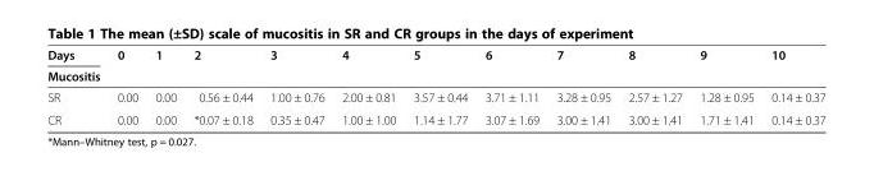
<table><thead><tr><td rowspan="2">Days Mucositis</td><td rowspan="2">0</td><td rowspan="2">1</td><td rowspan="2">2</td><td rowspan="2">3</td><td rowspan="2">4</td><td rowspan="2">5</td><td rowspan="2">6</td><td rowspan="2">7</td><td rowspan="2">8</td><td rowspan="2">9</td><td rowspan="2">10</td></tr><tr></tr></thead><tbody><tr><td>SR</td><td>0.00</td><td>0.00</td><td>0.56 ± 0.44</td><td>1.00 ± 0.76</td><td>2.00 ± 0.81</td><td>3.57 ± 0.44</td><td>3.71 ± 1.11</td><td>3.28 ± 0.95</td><td>2.57 ± 1.27</td><td>1.28 ± 0.95</td><td>0.14 ± 0.37</td></tr><tr><td>CR</td><td>0.00</td><td>0.00</td><td>*0.07 ± 0.18</td><td>0.35 ± 0.47</td><td>1.00 ± 1.00</td><td>1.14 ± 1.77</td><td>3.07 ± 1.69</td><td>3.00 ± 1.41</td><td>3.00 ± 1.41</td><td>1.71 ± 1.41</td><td>0.14 ± 0.37</td></tr></tbody></table>